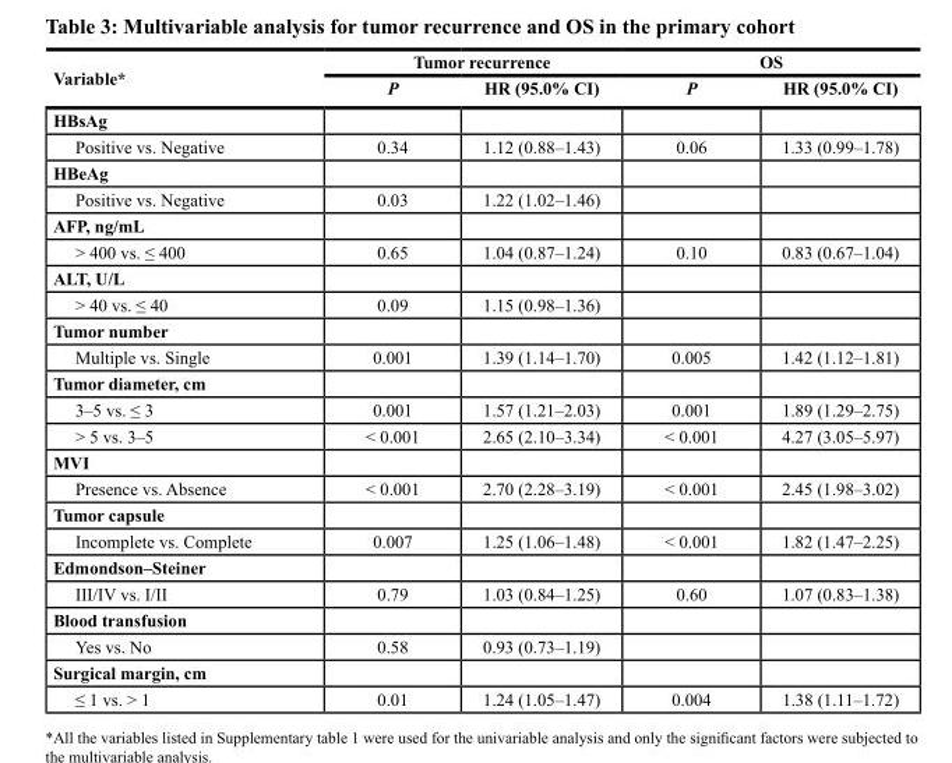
<table><thead><tr><td rowspan="2">Variable*</td><td colspan="2">Tumor recurrence</td><td colspan="2">OS</td></tr><tr><td>P</td><td>HR (95.0% CI)</td><td>P</td><td>HR (95.0% CI)</td></tr></thead><tbody><tr><td colspan="5">HBsAg</td></tr><tr><td>Positive vs. Negative</td><td>0.34</td><td>1.12 (0.88–1.43)</td><td>0.06</td><td>1.33 (0.99–1.78)</td></tr><tr><td colspan="5">HBeAg</td></tr><tr><td>Positive vs. Negative</td><td>0.03</td><td>1.22 (1.02–1.46)</td><td></td><td></td></tr><tr><td colspan="5">AFP, ng/mL</td></tr><tr><td>&gt; 400 vs. ≤ 400</td><td>0.65</td><td>1.04 (0.87–1.24)</td><td>0.10</td><td>0.83 (0.67–1.04)</td></tr><tr><td colspan="5">ALT, U/L</td></tr><tr><td>&gt; 40 vs. ≤ 40</td><td>0.09</td><td>1.15 (0.98–1.36)</td><td></td><td></td></tr><tr><td colspan="5">Tumor number</td></tr><tr><td>Multiple vs. Single</td><td>0.001</td><td>1.39 (1.14–1.70)</td><td>0.005</td><td>1.42 (1.12–1.81)</td></tr><tr><td colspan="5">Tumor diameter, cm</td></tr><tr><td>3–5 vs. ≤ 3</td><td>0.001</td><td>1.57 (1.21–2.03)</td><td>0.001</td><td>1.89 (1.29–2.75)</td></tr><tr><td>&gt; 5 vs. 3–5</td><td>&lt; 0.001</td><td>2.65 (2.10–3.34)</td><td>&lt; 0.001</td><td>4.27 (3.05–5.97)</td></tr><tr><td colspan="5">MVI</td></tr><tr><td>Presence vs. Absence</td><td>&lt; 0.001</td><td>2.70 (2.28–3.19)</td><td>&lt; 0.001</td><td>2.45 (1.98–3.02)</td></tr><tr><td colspan="5">Tumor capsule</td></tr><tr><td>Incomplete vs. Complete</td><td>0.007</td><td>1.25 (1.06–1.48)</td><td>&lt; 0.001</td><td>1.82 (1.47–2.25)</td></tr><tr><td colspan="5">Edmondson–Steiner</td></tr><tr><td>III/IV vs. I/II</td><td>0.79</td><td>1.03 (0.84–1.25)</td><td>0.60</td><td>1.07 (0.83–1.38)</td></tr><tr><td colspan="5">Blood transfusion</td></tr><tr><td>Yes vs. No</td><td>0.58</td><td>0.93 (0.73–1.19)</td><td></td><td></td></tr><tr><td colspan="5">Surgical margin, cm</td></tr><tr><td>≤ 1 vs. &gt; 1</td><td>0.01</td><td>1.24 (1.05–1.47)</td><td>0.004</td><td>1.38 (1.11–1.72)</td></tr></tbody></table>